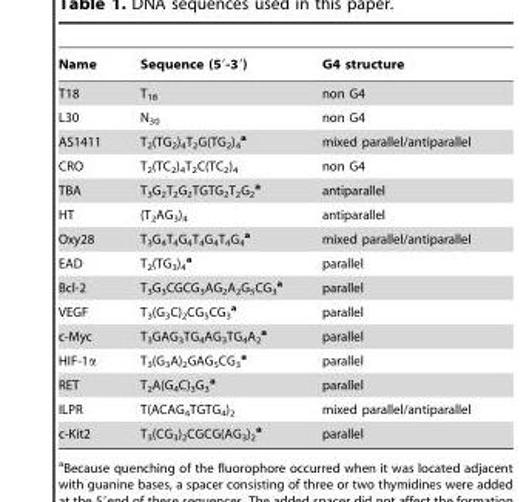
<table><thead><tr><td>Name</td><td>Sequence (5′-3′)</td><td>G4 structure</td></tr></thead><tbody><tr><td>T18</td><td>T<sub>18</sub></td><td>non G4</td></tr><tr><td>L30</td><td>N<sub>30</sub></td><td>non G4</td></tr><tr><td>AS1411</td><td>T<sub>2</sub>(TG<sub>2</sub>)<sub>4</sub>T<sub>2</sub>G(TG<sub>2</sub>)<sub>4</sub> a</td><td>mixed parallel/antiparallel</td></tr><tr><td>CRO</td><td>T<sub>2</sub>(TC<sub>2</sub>)<sub>4</sub>T<sub>2</sub>C(TC<sub>2</sub>)<sub>4</sub></td><td>non G4</td></tr><tr><td>TBA</td><td>T<sub>3</sub>G<sub>2</sub>T<sub>2</sub>G<sub>2</sub>TGTG<sub>2</sub>T<sub>2</sub>G<sub>2</sub> a</td><td>antiparallel</td></tr><tr><td>HT</td><td>(T<sub>2</sub>AG<sub>3</sub>)<sub>4</sub></td><td>antiparallel</td></tr><tr><td>Oxy28</td><td>T<sub>3</sub>G<sub>4</sub>T<sub>4</sub>G<sub>4</sub>T<sub>4</sub>G<sub>4</sub>T<sub>4</sub>G<sub>4</sub> a</td><td>mixed parallel/antiparallel</td></tr><tr><td>EAD</td><td>T<sub>2</sub>(TG<sub>3</sub>)<sub>4</sub> a</td><td>parallel</td></tr><tr><td>Bcl-2</td><td>T<sub>3</sub>G<sub>3</sub>CGCG<sub>3</sub>AG<sub>2</sub>A<sub>2</sub>G<sub>5</sub>CG<sub>3</sub> a</td><td>parallel</td></tr><tr><td>VEGF</td><td>T<sub>3</sub>(G<sub>3</sub>C)<sub>2</sub>CG<sub>5</sub>CG<sub>3</sub> a</td><td>parallel</td></tr><tr><td>c-Myc</td><td>T<sub>3</sub>GAG<sub>3</sub>TG<sub>4</sub>AG<sub>3</sub>TG<sub>4</sub>A<sub>2</sub> a</td><td>parallel</td></tr><tr><td>HIF-1α</td><td>T<sub>3</sub>(G<sub>3</sub>A)<sub>2</sub>GAG<sub>5</sub>CG<sub>3</sub> a</td><td>parallel</td></tr><tr><td>RET</td><td>T<sub>2</sub>A(G<sub>4</sub>C)<sub>3</sub>G<sub>3</sub> a</td><td>parallel</td></tr><tr><td>ILPR</td><td>T(ACAG<sub>4</sub>TGTG<sub>4</sub>)<sub>2</sub></td><td>mixed parallel/antiparallel</td></tr><tr><td>c-Kit2</td><td>T<sub>3</sub>(CG<sub>3</sub>)<sub>2</sub>CGCG(AG<sub>3</sub>)<sub>2</sub> a</td><td>parallel</td></tr></tbody></table>